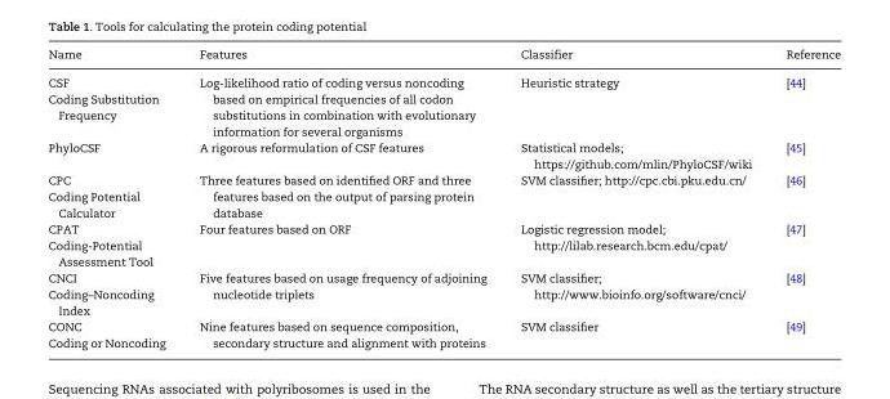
<table><thead><tr><td>Name</td><td>Features</td><td>Classifier</td><td>Reference</td></tr></thead><tbody><tr><td>CSF Coding Substitution Frequency</td><td>Log-likelihood ratio of coding versus noncoding based on empirical frequencies of all codon substitutions in combination with evolutionary information for several organisms</td><td>Heuristic strategy</td><td>[44]</td></tr><tr><td>PhyloCSF</td><td>A rigorous reformulation of CSF features</td><td>Statistical models; https://github.com/mlin/PhyloCSF/wiki</td><td>[45]</td></tr><tr><td>CPC Coding Potential Calculator</td><td>Three features based on identified ORF and three features based on the output of parsing protein database</td><td>SVM classifier; http://cpc.cbi.pku.edu.cn/</td><td>[46]</td></tr><tr><td>CPAT Coding-Potential Assessment Tool</td><td>Four features based on ORF</td><td>Logistic regression model; http://lilab.research.bcm.edu/cpat/</td><td>[47]</td></tr><tr><td>CNCI Coding–Noncoding Index</td><td>Five features based on usage frequency of adjoining nucleotide triplets</td><td>SVM classifier; http://www.bioinfo.org/software/cnci/</td><td>[48]</td></tr><tr><td>CONC Coding or Noncoding</td><td>Nine features based on sequence composition, secondary structure and alignment with proteins</td><td>SVM classifier</td><td>[49]</td></tr></tbody></table>